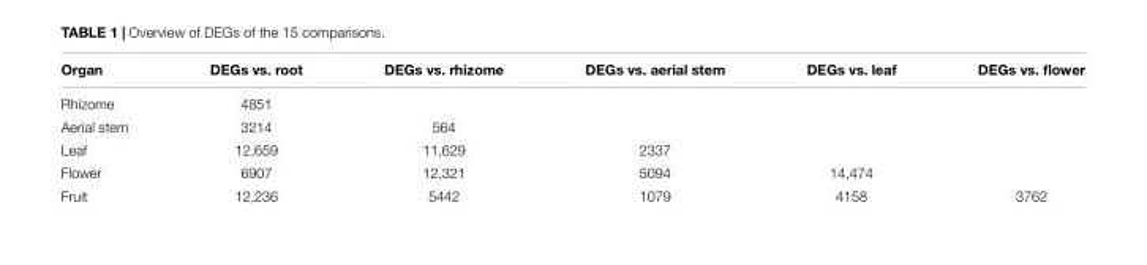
<table><thead><tr><td>Organ</td><td>DEGs vs. root</td><td>DEGs vs. rhizome</td><td>DEGs vs. aerial stem</td><td>DEGs vs. leaf</td><td>DEGs vs. flower</td></tr></thead><tbody><tr><td>Rhizome</td><td>4851</td><td></td><td></td><td></td><td></td></tr><tr><td>Aerial stem</td><td>3214</td><td>564</td><td></td><td></td><td></td></tr><tr><td>Leaf</td><td>12,659</td><td>11,629</td><td>2337</td><td></td><td></td></tr><tr><td>Flower</td><td>6907</td><td>12,321</td><td>5094</td><td>14,474</td><td></td></tr><tr><td>Fruit</td><td>12,236</td><td>5442</td><td>1079</td><td>4158</td><td>3762</td></tr></tbody></table>